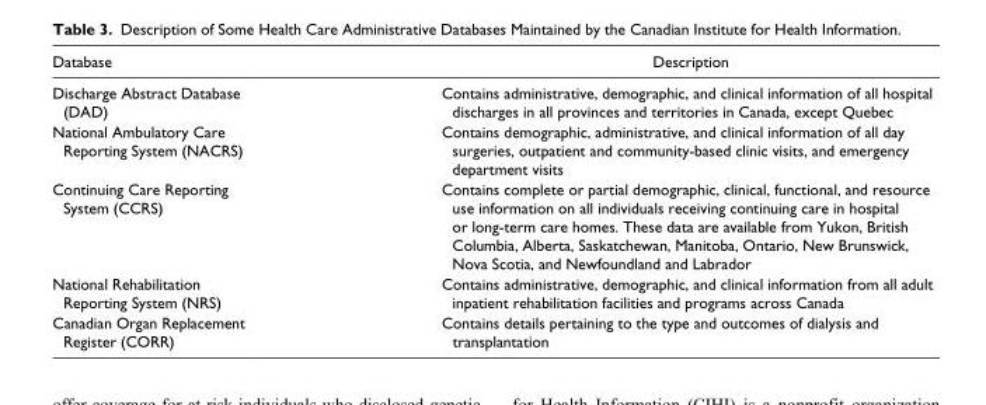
<table><thead><tr><td>Database</td><td>Description</td></tr></thead><tbody><tr><td>Discharge Abstract Database (DAD)</td><td>Contains administrative, demographic, and clinical information of all hospital discharges in all provinces and territories in Canada, except Quebec</td></tr><tr><td>National Ambulatory Care Reporting System (NACRS)</td><td>Contains demographic, administrative, and clinical information of all day surgeries, outpatient and community-based clinic visits, and emergency department visits</td></tr><tr><td>Continuing Care Reporting System (CCRS)</td><td>Contains complete or partial demographic, clinical, functional, and resource use information on all individuals receiving continuing care in hospital or long-term care homes. These data are available from Yukon, British Columbia, Alberta, Saskatchewan, Manitoba, Ontario, New Brunswick, Nova Scotia, and Newfoundland and Labrador</td></tr><tr><td>National Rehabilitation Reporting System (NRS)</td><td>Contains administrative, demographic, and clinical information from all adult inpatient rehabilitation facilities and programs across Canada</td></tr><tr><td>Canadian Organ Replacement Register (CORR)</td><td>Contains details pertaining to the type and outcomes of dialysis and transplantation</td></tr></tbody></table>